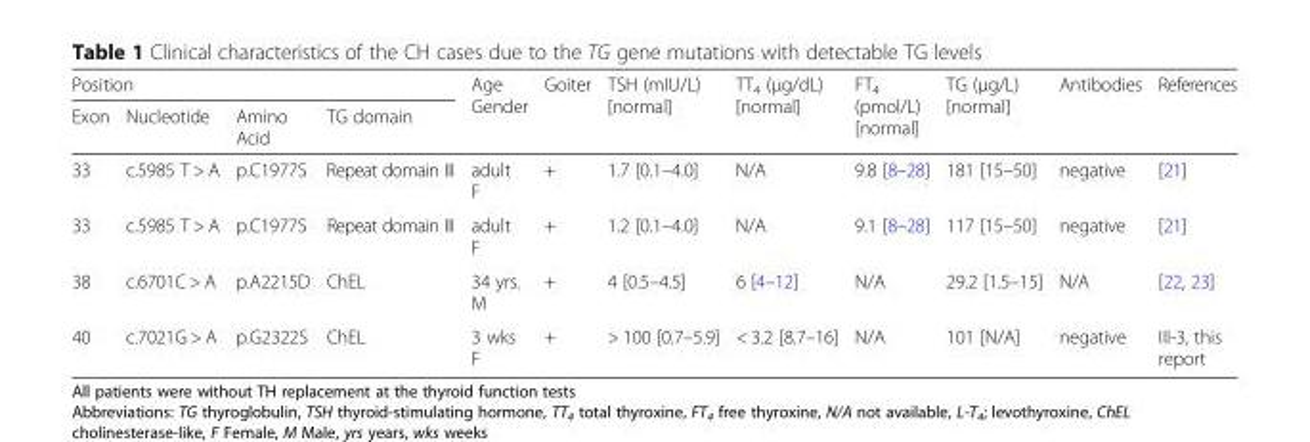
<table><thead><tr><td colspan="4">Position</td><td rowspan="2">Age Gender</td><td rowspan="2">Goiter</td><td rowspan="2">TSH (mIU/L) [normal]</td><td rowspan="2">TT<sub>4</sub> (μg/dL) [normal]</td><td rowspan="2">FT<sub>4</sub> (pmol/L) [normal]</td><td rowspan="2">TG (μg/L) [normal]</td><td rowspan="2">Antibodies</td><td rowspan="2">References</td></tr><tr><td>Exon</td><td>Nucleotide</td><td>Amino Acid</td><td>TG domain</td></tr></thead><tbody><tr><td>33</td><td>c.5985 T &gt; A</td><td>p.C1977S</td><td>Repeat domain III</td><td>adult F</td><td>+</td><td>1.7 [0.1–4.0]</td><td>N/A</td><td>9.8 [8–28]</td><td>181 [15–50]</td><td>negative</td><td>[21]</td></tr><tr><td>33</td><td>c.5985 T &gt; A</td><td>p.C1977S</td><td>Repeat domain III</td><td>adult F</td><td>+</td><td>1.2 [0.1–4.0]</td><td>N/A</td><td>9.1 [8–28]</td><td>117 [15–50]</td><td>negative</td><td>[21]</td></tr><tr><td>38</td><td>c.6701C &gt; A</td><td>p.A2215D</td><td>ChEL</td><td>34 yrs. M</td><td>+</td><td>4 [0.5–4.5]</td><td>6 [4–12]</td><td>N/A</td><td>29.2 [1.5–15]</td><td>N/A</td><td>[22, 23]</td></tr><tr><td>40</td><td>c.7021G &gt; A</td><td>p.G2322S</td><td>ChEL</td><td>3 wks F</td><td>+</td><td>&gt; 100 [0.7–5.9]</td><td>&lt; 3.2 [8.7–16]</td><td>N/A</td><td>101 [N/A]</td><td>negative</td><td>III-3, this report</td></tr></tbody></table>